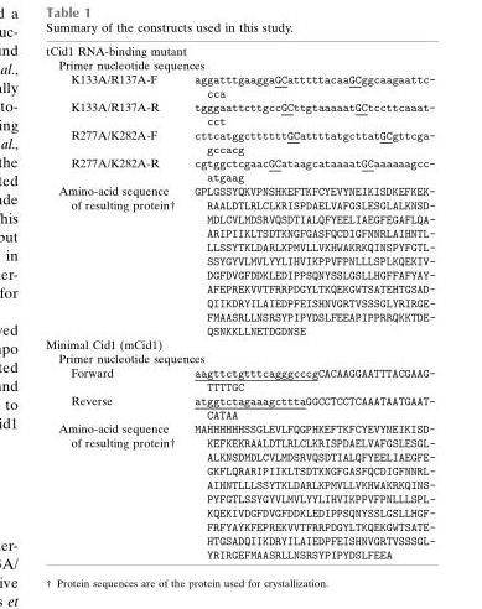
<table><tbody><tr><td colspan="2">tCid1 RNA-binding mutant</td></tr><tr><td colspan="2">Primer nucleotide sequences</td></tr><tr><td>K133A/R137A-F</td><td>aggatttgaaggaGCatttttacaaGCggcaagaattc- cca</td></tr><tr><td>K133A/R137A-R</td><td>tgggaattcttgccGCttgtaaaaatGCtccttcaaat- cct</td></tr><tr><td>R277A/K282A-F</td><td>cttcatggcttttttGCattttatgcttatGCgttcga- gccacg</td></tr><tr><td>R277A/K282A-R</td><td>cgtggctcgaacGCataagcataaaatGCaaaaaagcc- atgaag</td></tr><tr><td>Amino-acid sequence of resulting protein†</td><td>GPLGSSYQKVPNSHKEFTKFCYEVYNEIKISDKEFKEK- RAALDTLRLCLKRISPDAELVAFGSLESGLALKNSD- MDLCVLMDSRVQSDTIALQFYEELIAEGFEGAFLQA- ARIPIIKLTSDTKNGFGASFQCDIGFNNRLAIHNTL- LLSSYTKLDARLKPMVLLVKHWAKRKQINSPYFGTL- SSYGYVLMVLYYLIHVIKPPVFPNLLLSPLKQEKIV- DGFDVGFDDKLEDIPPSQNYSSLGSLLHGFFAFYAY- AFEPREKVVTFRRPDGYLTKQEKGWTSATEHTGSAD- QIIKDRYILAIEDPFEISHNVGRTVSSSGLYRIRGE- FMAASRLLNSRSYPIPYDSLFEEAPIPPRRQKKTDE- QSNKKLLNETDGDNSE</td></tr><tr><td colspan="2">Minimal Cid1 (mCid1)</td></tr><tr><td colspan="2">Primer nucleotide sequences</td></tr><tr><td>Forward</td><td>aagttctgtttcagggcccgCACAAGGAATTTACGAAG- TTTTGC</td></tr><tr><td>Reverse</td><td>atggtctagaaagctttaGGCCTCCTCAAATAATGAAT- CATAA</td></tr><tr><td>Amino-acid sequence of resulting protein†</td><td>MAHHHHHHSSGLEVLFQGPHKEFTKFCYEVYNEIKISD- KEFKEKRAALDTLRLCLKRISPDAELVAFGSLESGL- ALKNSDMDLCVLMDSRVQSDTIALQFYEELIAEGFE- GKFLQRARIPIIKLTSDTKNGFGASFQCDIGFNNRL- AIHNTLLLSSYTKLDARLKPMVLLVKHWAKRKQINS- PYFGTLSSYGYVLMVLYYLIHVIKPPVFPNLLLSPL- KQEKIVDGFDVGFDDKLEDIPPSQNYSSLGSLLHGF- FRFYAYKFEPREKVVTFRRPDGYLTKQEKGWTSATE- HTGSADQIIKDRYILAIEDPFEISHNVGRTVSSSGL- YRIRGEFMAASRLLNSRSYPIPYDSLFEEA</td></tr></tbody></table>